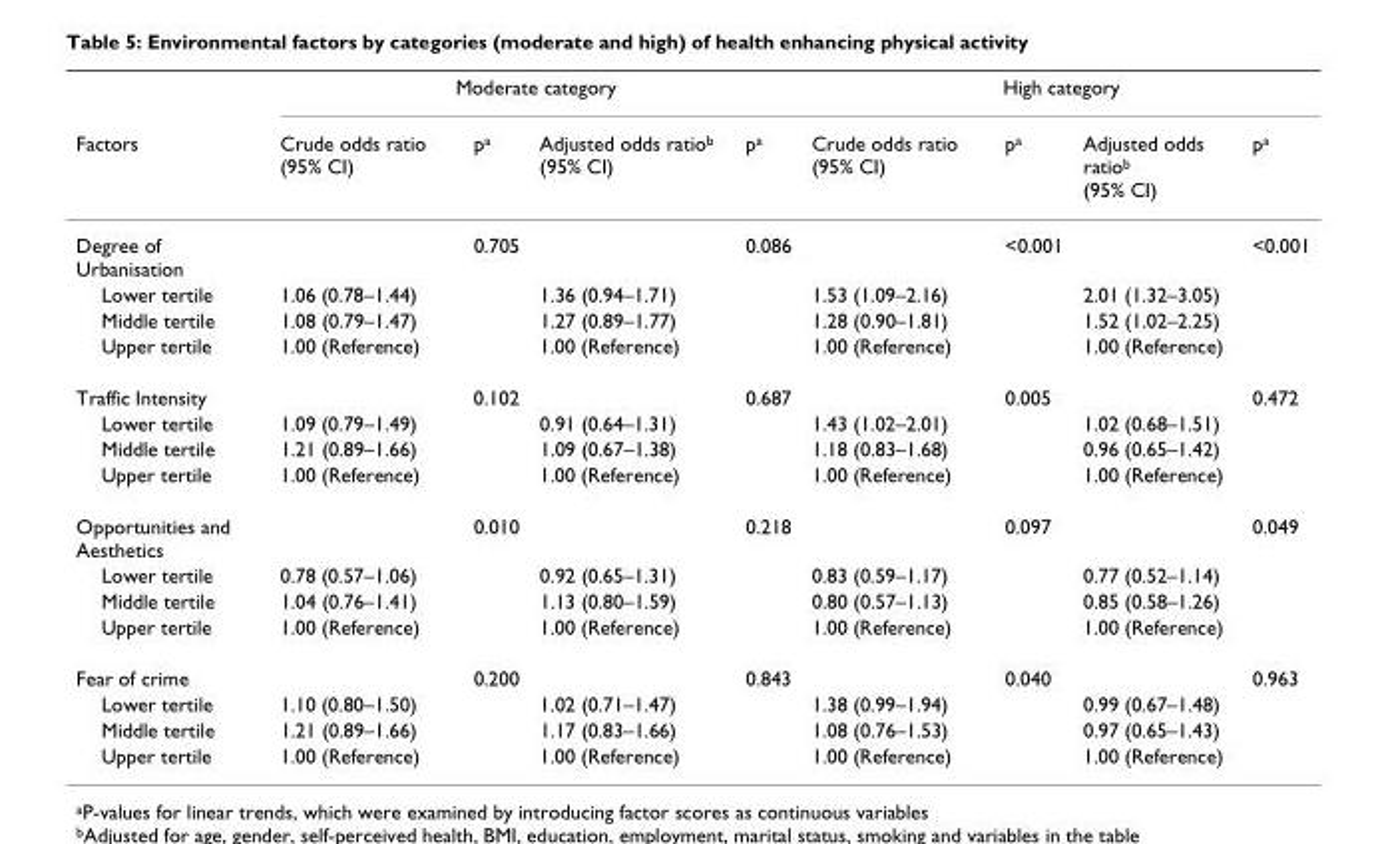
<table><thead><tr><td rowspan="2">Factors</td><td colspan="4">Moderate category</td><td colspan="4">High category</td></tr><tr><td>Crude odds ratio (95% CI)</td><td>p<sup>a</sup></td><td>Adjusted odds ratio<sup>b</sup> (95% CI)</td><td>p<sup>a</sup></td><td>Crude odds ratio (95% CI)</td><td>p<sup>a</sup></td><td>Adjusted odds ratio<sup>b</sup> (95% CI)</td><td>p<sup>a</sup></td></tr></thead><tbody><tr><td>Degree of Urbanisation</td><td></td><td>0.705</td><td></td><td>0.086</td><td></td><td>&lt;0.001</td><td></td><td>&lt;0.001</td></tr><tr><td>Lower tertile</td><td>1.06 (0.78–1.44)</td><td></td><td>1.36 (0.94–1.71)</td><td></td><td>1.53 (1.09–2.16)</td><td></td><td>2.01 (1.32–3.05)</td><td></td></tr><tr><td>Middle tertile</td><td>1.08 (0.79–1.47)</td><td></td><td>1.27 (0.89–1.77)</td><td></td><td>1.28 (0.90–1.81)</td><td></td><td>1.52 (1.02–2.25)</td><td></td></tr><tr><td>Upper tertile</td><td>1.00 (Reference)</td><td></td><td>1.00 (Reference)</td><td></td><td>1.00 (Reference)</td><td></td><td>1.00 (Reference)</td><td></td></tr><tr><td>Traffic Intensity</td><td></td><td>0.102</td><td></td><td>0.687</td><td></td><td>0.005</td><td></td><td>0.472</td></tr><tr><td>Lower tertile</td><td>1.09 (0.79–1.49)</td><td></td><td>0.91 (0.64–1.31)</td><td></td><td>1.43 (1.02–2.01)</td><td></td><td>1.02 (0.68–1.51)</td><td></td></tr><tr><td>Middle tertile</td><td>1.21 (0.89–1.66)</td><td></td><td>1.09 (0.67–1.38)</td><td></td><td>1.18 (0.83–1.68)</td><td></td><td>0.96 (0.65–1.42)</td><td></td></tr><tr><td>Upper tertile</td><td>1.00 (Reference)</td><td></td><td>1.00 (Reference)</td><td></td><td>1.00 (Reference)</td><td></td><td>1.00 (Reference)</td><td></td></tr><tr><td>Opportunities and Aesthetics</td><td></td><td>0.010</td><td></td><td>0.218</td><td></td><td>0.097</td><td></td><td>0.049</td></tr><tr><td>Lower tertile</td><td>0.78 (0.57–1.06)</td><td></td><td>0.92 (0.65–1.31)</td><td></td><td>0.83 (0.59–1.17)</td><td></td><td>0.77 (0.52–1.14)</td><td></td></tr><tr><td>Middle tertile</td><td>1.04 (0.76–1.41)</td><td></td><td>1.13 (0.80–1.59)</td><td></td><td>0.80 (0.57–1.13)</td><td></td><td>0.85 (0.58–1.26)</td><td></td></tr><tr><td>Upper tertile</td><td>1.00 (Reference)</td><td></td><td>1.00 (Reference)</td><td></td><td>1.00 (Reference)</td><td></td><td>1.00 (Reference)</td><td></td></tr><tr><td>Fear of crime</td><td></td><td>0.200</td><td></td><td>0.843</td><td></td><td>0.040</td><td></td><td>0.963</td></tr><tr><td>Lower tertile</td><td>1.10 (0.80–1.50)</td><td></td><td>1.02 (0.71–1.47)</td><td></td><td>1.38 (0.99–1.94)</td><td></td><td>0.99 (0.67–1.48)</td><td></td></tr><tr><td>Middle tertile</td><td>1.21 (0.89–1.66)</td><td></td><td>1.17 (0.83–1.66)</td><td></td><td>1.08 (0.76–1.53)</td><td></td><td>0.97 (0.65–1.43)</td><td></td></tr><tr><td>Upper tertile</td><td>1.00 (Reference)</td><td></td><td>1.00 (Reference)</td><td></td><td>1.00 (Reference)</td><td></td><td>1.00 (Reference)</td><td></td></tr></tbody></table>